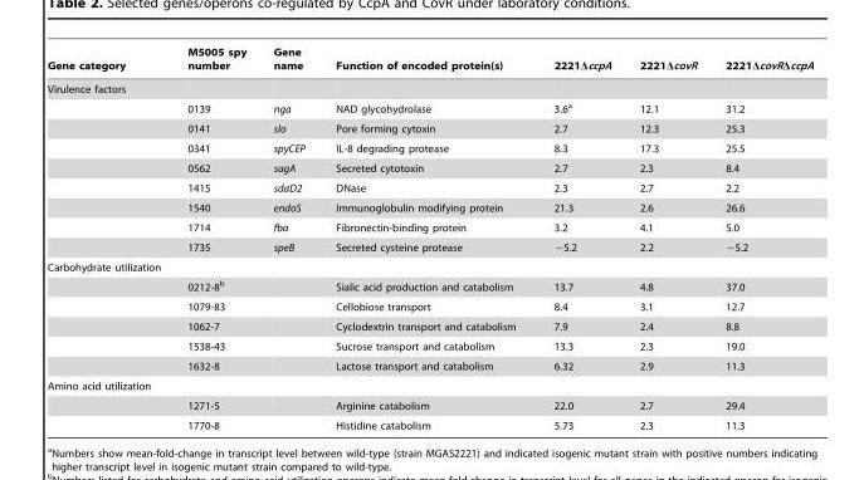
<table><thead><tr><td>Gene category</td><td>M5005 spy number</td><td>Gene name</td><td>Function of encoded protein(s)</td><td>2221ΔccpA</td><td>2221ΔcovR</td><td>2221ΔcovRΔccpA</td></tr></thead><tbody><tr><td colspan="7">Virulence factors</td></tr><tr><td></td><td>0139</td><td>nga</td><td>NAD glycohydrolase</td><td>3.6<sup>a</sup></td><td>12.1</td><td>31.2</td></tr><tr><td></td><td>0141</td><td>slo</td><td>Pore forming cytoxin</td><td>2.7</td><td>12.3</td><td>25.3</td></tr><tr><td></td><td>0341</td><td>spyCEP</td><td>IL-8 degrading protease</td><td>8.3</td><td>17.3</td><td>25.5</td></tr><tr><td></td><td>0562</td><td>sagA</td><td>Secreted cytotoxin</td><td>2.7</td><td>2.3</td><td>8.4</td></tr><tr><td></td><td>1415</td><td>sdaD2</td><td>DNase</td><td>2.3</td><td>2.7</td><td>2.2</td></tr><tr><td></td><td>1540</td><td>endoS</td><td>Immunoglobulin modifying protein</td><td>21.3</td><td>2.6</td><td>26.6</td></tr><tr><td></td><td>1714</td><td>fba</td><td>Fibronectin-binding protein</td><td>3.2</td><td>4.1</td><td>5.0</td></tr><tr><td></td><td>1735</td><td>speB</td><td>Secreted cysteine protease</td><td>−5.2</td><td>2.2</td><td>−5.2</td></tr><tr><td colspan="7">Carbohydrate utilization</td></tr><tr><td></td><td>0212-8<sup>b</sup></td><td></td><td>Sialic acid production and catabolism</td><td>13.7</td><td>4.8</td><td>37.0</td></tr><tr><td></td><td>1079-83</td><td></td><td>Cellobiose transport</td><td>8.4</td><td>3.1</td><td>12.7</td></tr><tr><td></td><td>1062-7</td><td></td><td>Cyclodextrin transport and catabolism</td><td>7.9</td><td>2.4</td><td>8.8</td></tr><tr><td></td><td>1538-43</td><td></td><td>Sucrose transport and catabolism</td><td>13.3</td><td>2.3</td><td>19.0</td></tr><tr><td></td><td>1632-8</td><td></td><td>Lactose transport and catabolism</td><td>6.32</td><td>2.9</td><td>11.3</td></tr><tr><td colspan="7">Amino acid utilization</td></tr><tr><td></td><td>1271-5</td><td></td><td>Arginine catabolism</td><td>22.0</td><td>2.7</td><td>29.4</td></tr><tr><td></td><td>1770-8</td><td></td><td>Histidine catabolism</td><td>5.73</td><td>2.3</td><td>11.3</td></tr></tbody></table>